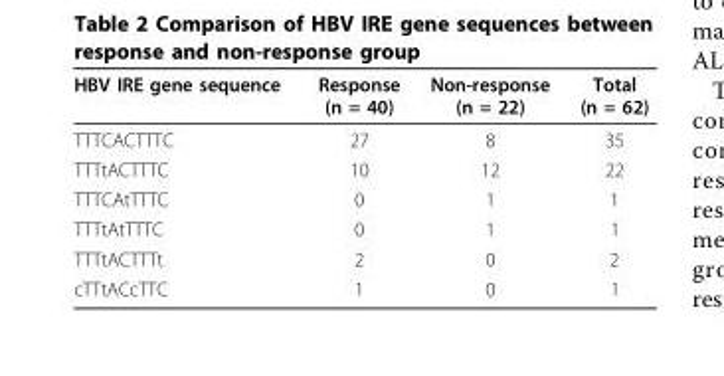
<table><thead><tr><td>HBV IRE gene sequence</td><td>Response (n = 40)</td><td>Non-response (n = 22)</td><td>Total (n = 62)</td></tr></thead><tbody><tr><td>TTTCACTTTC</td><td>27</td><td>8</td><td>35</td></tr><tr><td>TTTtACTTTC</td><td>10</td><td>12</td><td>22</td></tr><tr><td>TTTCAtTTTC</td><td>0</td><td>1</td><td>1</td></tr><tr><td>TTTtAtTTTC</td><td>0</td><td>1</td><td>1</td></tr><tr><td>TTTtACTTTt</td><td>2</td><td>0</td><td>2</td></tr><tr><td>cTTtACcTTC</td><td>1</td><td>0</td><td>1</td></tr></tbody></table>